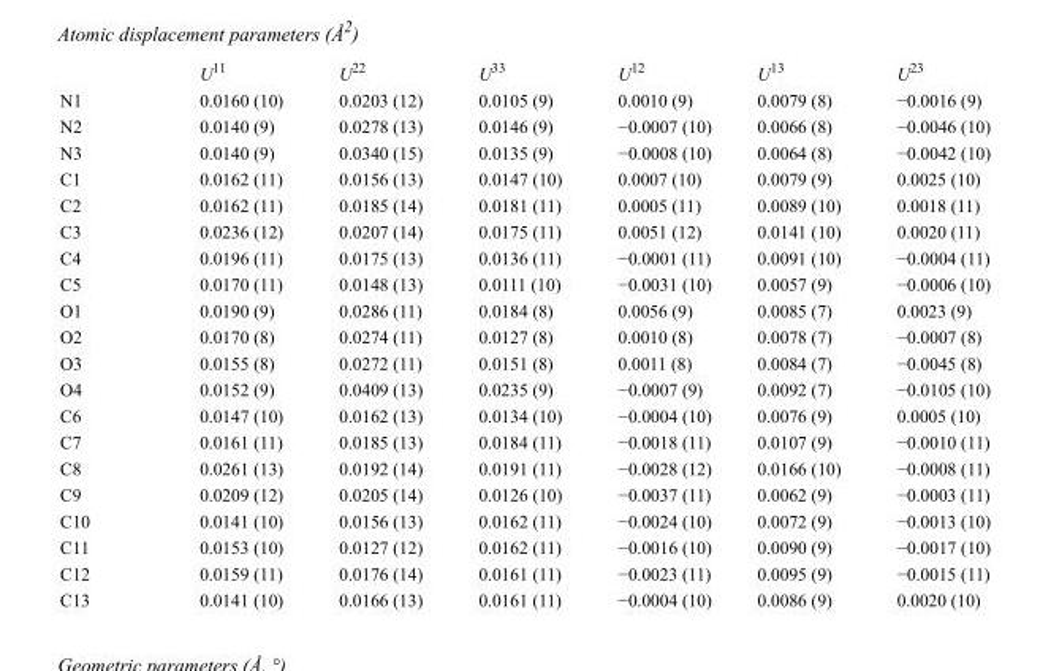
<table><thead><tr><td></td><td>U<sup>11</sup></td><td>U<sup>22</sup></td><td>U<sup>33</sup></td><td>U<sup>12</sup></td><td>U<sup>13</sup></td><td>U<sup>23</sup></td></tr></thead><tbody><tr><td>N1</td><td>0.0160 (10)</td><td>0.0203 (12)</td><td>0.0105 (9)</td><td>0.0010 (9)</td><td>0.0079 (8)</td><td>−0.0016 (9)</td></tr><tr><td>N2</td><td>0.0140 (9)</td><td>0.0278 (13)</td><td>0.0146 (9)</td><td>−0.0007 (10)</td><td>0.0066 (8)</td><td>−0.0046 (10)</td></tr><tr><td>N3</td><td>0.0140 (9)</td><td>0.0340 (15)</td><td>0.0135 (9)</td><td>−0.0008 (10)</td><td>0.0064 (8)</td><td>−0.0042 (10)</td></tr><tr><td>C1</td><td>0.0162 (11)</td><td>0.0156 (13)</td><td>0.0147 (10)</td><td>0.0007 (10)</td><td>0.0079 (9)</td><td>0.0025 (10)</td></tr><tr><td>C2</td><td>0.0162 (11)</td><td>0.0185 (14)</td><td>0.0181 (11)</td><td>0.0005 (11)</td><td>0.0089 (10)</td><td>0.0018 (11)</td></tr><tr><td>C3</td><td>0.0236 (12)</td><td>0.0207 (14)</td><td>0.0175 (11)</td><td>0.0051 (12)</td><td>0.0141 (10)</td><td>0.0020 (11)</td></tr><tr><td>C4</td><td>0.0196 (11)</td><td>0.0175 (13)</td><td>0.0136 (11)</td><td>−0.0001 (11)</td><td>0.0091 (10)</td><td>−0.0004 (11)</td></tr><tr><td>C5</td><td>0.0170 (11)</td><td>0.0148 (13)</td><td>0.0111 (10)</td><td>−0.0031 (10)</td><td>0.0057 (9)</td><td>−0.0006 (10)</td></tr><tr><td>O1</td><td>0.0190 (9)</td><td>0.0286 (11)</td><td>0.0184 (8)</td><td>0.0056 (9)</td><td>0.0085 (7)</td><td>0.0023 (9)</td></tr><tr><td>O2</td><td>0.0170 (8)</td><td>0.0274 (11)</td><td>0.0127 (8)</td><td>0.0010 (8)</td><td>0.0078 (7)</td><td>−0.0007 (8)</td></tr><tr><td>O3</td><td>0.0155 (8)</td><td>0.0272 (11)</td><td>0.0151 (8)</td><td>0.0011 (8)</td><td>0.0084 (7)</td><td>−0.0045 (8)</td></tr><tr><td>O4</td><td>0.0152 (9)</td><td>0.0409 (13)</td><td>0.0235 (9)</td><td>−0.0007 (9)</td><td>0.0092 (7)</td><td>−0.0105 (10)</td></tr><tr><td>C6</td><td>0.0147 (10)</td><td>0.0162 (13)</td><td>0.0134 (10)</td><td>−0.0004 (10)</td><td>0.0076 (9)</td><td>0.0005 (10)</td></tr><tr><td>C7</td><td>0.0161 (11)</td><td>0.0185 (13)</td><td>0.0184 (11)</td><td>−0.0018 (11)</td><td>0.0107 (9)</td><td>−0.0010 (11)</td></tr><tr><td>C8</td><td>0.0261 (13)</td><td>0.0192 (14)</td><td>0.0191 (11)</td><td>−0.0028 (12)</td><td>0.0166 (10)</td><td>−0.0008 (11)</td></tr><tr><td>C9</td><td>0.0209 (12)</td><td>0.0205 (14)</td><td>0.0126 (10)</td><td>−0.0037 (11)</td><td>0.0062 (9)</td><td>−0.0003 (11)</td></tr><tr><td>C10</td><td>0.0141 (10)</td><td>0.0156 (13)</td><td>0.0162 (11)</td><td>−0.0024 (10)</td><td>0.0072 (9)</td><td>−0.0013 (10)</td></tr><tr><td>C11</td><td>0.0153 (10)</td><td>0.0127 (12)</td><td>0.0162 (11)</td><td>−0.0016 (10)</td><td>0.0090 (9)</td><td>−0.0017 (10)</td></tr><tr><td>C12</td><td>0.0159 (11)</td><td>0.0176 (14)</td><td>0.0161 (11)</td><td>−0.0023 (11)</td><td>0.0095 (9)</td><td>−0.0015 (11)</td></tr><tr><td>C13</td><td>0.0141 (10)</td><td>0.0166 (13)</td><td>0.0161 (11)</td><td>−0.0004 (10)</td><td>0.0086 (9)</td><td>0.0020 (10)</td></tr></tbody></table>